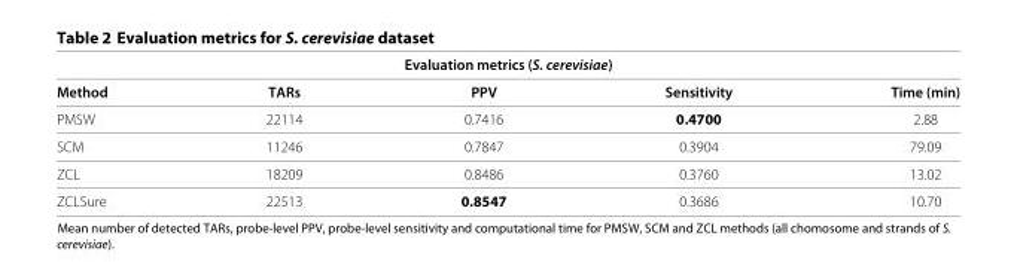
<table><thead><tr><td colspan="5">Evaluation metrics (S. cerevisiae)</td></tr><tr><td>Method</td><td>TARs</td><td>PPV</td><td>Sensitivity</td><td>Time (min)</td></tr></thead><tbody><tr><td>PMSW</td><td>22114</td><td>0.7416</td><td>0.4700</td><td>2.88</td></tr><tr><td>SCM</td><td>11246</td><td>0.7847</td><td>0.3904</td><td>79.09</td></tr><tr><td>ZCL</td><td>18209</td><td>0.8486</td><td>0.3760</td><td>13.02</td></tr><tr><td>ZCLSure</td><td>22513</td><td>0.8547</td><td>0.3686</td><td>10.70</td></tr></tbody></table>